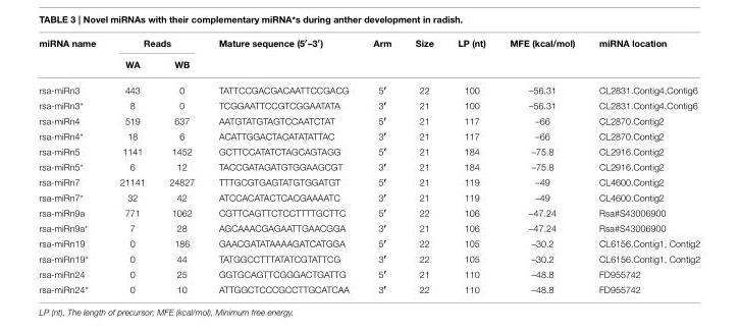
<table><thead><tr><td rowspan="2">miRNA name</td><td colspan="2">Reads</td><td rowspan="2">Mature sequence (5′–3′)</td><td rowspan="2">Arm</td><td rowspan="2">Size</td><td rowspan="2">LP (nt)</td><td rowspan="2">MFE (kcal/mol)</td><td rowspan="2">miRNA location</td></tr><tr><td>WA</td><td>WB</td></tr></thead><tbody><tr><td>rsa-miRn3</td><td>443</td><td>0</td><td>TATTCCGACGACAATTCCGACG</td><td>5′</td><td>22</td><td>100</td><td>–56.31</td><td>CL2831.Contig4,Contig6</td></tr><tr><td>rsa-miRn3*</td><td>8</td><td>0</td><td>TCGGAATTCCGTCGGAATATA</td><td>3′</td><td>21</td><td>100</td><td>–56.31</td><td>CL2831.Contig4,Contig6</td></tr><tr><td>rsa-miRn4</td><td>519</td><td>637</td><td>AATGTATGTAGTCCAATCTAT</td><td>5′</td><td>21</td><td>117</td><td>–66</td><td>CL2870.Contig2</td></tr><tr><td>rsa-miRn4*</td><td>18</td><td>6</td><td>ACATTGGACTACATATATTAC</td><td>3′</td><td>21</td><td>117</td><td>–66</td><td>CL2870.Contig2</td></tr><tr><td>rsa-miRn5</td><td>1141</td><td>1452</td><td>GCTTCCATATCTAGCAGTAGG</td><td>5′</td><td>21</td><td>184</td><td>–75.8</td><td>CL2916.Contig2</td></tr><tr><td>rsa-miRn5*</td><td>6</td><td>12</td><td>TACCGATAGATGTGGAAGCGT</td><td>3′</td><td>21</td><td>184</td><td>–75.8</td><td>CL2916.Contig2</td></tr><tr><td>rsa-miRn7</td><td>21141</td><td>24827</td><td>TTTGCGTGAGTATGTGGATGT</td><td>5′</td><td>21</td><td>119</td><td>–49</td><td>CL4600.Contig2</td></tr><tr><td>rsa-miRn7*</td><td>32</td><td>42</td><td>ATCCACATACTCACGAAAATC</td><td>3′</td><td>21</td><td>119</td><td>–49</td><td>CL4600.Contig2</td></tr><tr><td>rsa-miRn9a</td><td>771</td><td>1062</td><td>CGTTCAGTTCTCCTTTTGCTTC</td><td>5′</td><td>22</td><td>106</td><td>–47.24</td><td>Rsa#S43006900</td></tr><tr><td>rsa-miRn9a*</td><td>7</td><td>28</td><td>AGCAAACGAGAATTGAACGGA</td><td>3′</td><td>21</td><td>106</td><td>–47.24</td><td>Rsa#S43006900</td></tr><tr><td>rsa-miRn19</td><td>0</td><td>186</td><td>GAACGATATAAAAGATCATGGA</td><td>5′</td><td>22</td><td>105</td><td>–30.2</td><td>CL6156.Contig1, Contig2</td></tr><tr><td>rsa-miRn19*</td><td>0</td><td>44</td><td>TATGGCCTTTATATCGTATTCG</td><td>3′</td><td>22</td><td>105</td><td>–30.2</td><td>CL6156.Contig1, Contig2</td></tr><tr><td>rsa-miRn24</td><td>0</td><td>25</td><td>GGTGCAGTTCGGGACTGATTG</td><td>5′</td><td>21</td><td>110</td><td>–48.8</td><td>FD955742</td></tr><tr><td>rsa-miRn24*</td><td>0</td><td>10</td><td>ATTGGCTCCCGCCTTGCATCAA</td><td>3′</td><td>22</td><td>110</td><td>–48.8</td><td>FD955742</td></tr></tbody></table>